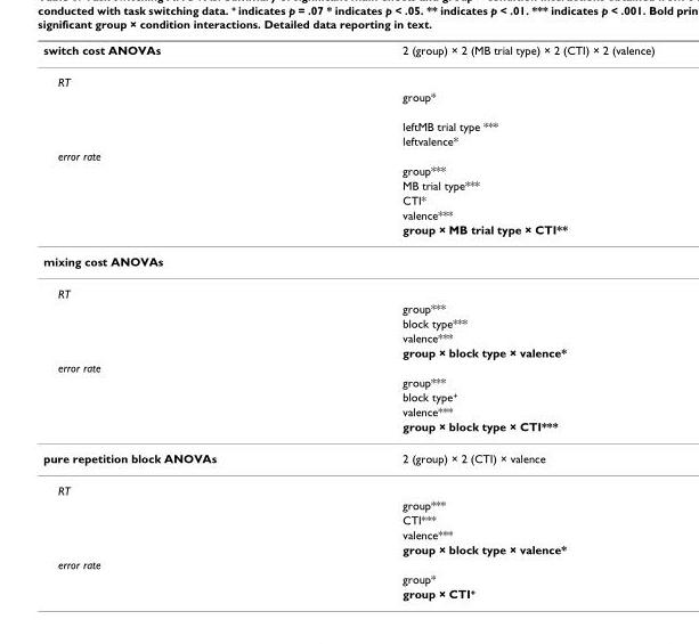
<table><thead><tr><td>switch cost ANOVAs</td><td>2 (group) × 2 (MB trial type) × 2 (CTI) × 2 (valence)</td></tr></thead><tbody><tr><td colspan="2">RT</td></tr><tr><td></td><td>group*</td></tr><tr><td></td><td>leftMB trial type ***</td></tr><tr><td></td><td>leftvalence*</td></tr><tr><td colspan="2">error rate</td></tr><tr><td></td><td>group***</td></tr><tr><td></td><td>MB trial type***</td></tr><tr><td></td><td>CTI*</td></tr><tr><td></td><td>valence***</td></tr><tr><td></td><td>group × MB trial type × CTI**</td></tr><tr><td colspan="2">mixing cost ANOVAs</td></tr><tr><td colspan="2">RT</td></tr><tr><td></td><td>group***</td></tr><tr><td></td><td>block type***</td></tr><tr><td></td><td>valence***</td></tr><tr><td></td><td>group × block type × valence*</td></tr><tr><td colspan="2">error rate</td></tr><tr><td></td><td>group***</td></tr><tr><td></td><td>block type<sup>+</sup></td></tr><tr><td></td><td>valence***</td></tr><tr><td></td><td>group × block type × CTI***</td></tr><tr><td>pure repetition block ANOVAs</td><td>2 (group) × 2 (CTI) × valence</td></tr><tr><td colspan="2">RT</td></tr><tr><td></td><td>group***</td></tr><tr><td></td><td>CTI***</td></tr><tr><td></td><td>valence***</td></tr><tr><td></td><td>group × block type × valence*</td></tr><tr><td colspan="2">error rate</td></tr><tr><td></td><td>group*</td></tr><tr><td></td><td>group × CTI<sup>+</sup></td></tr></tbody></table>